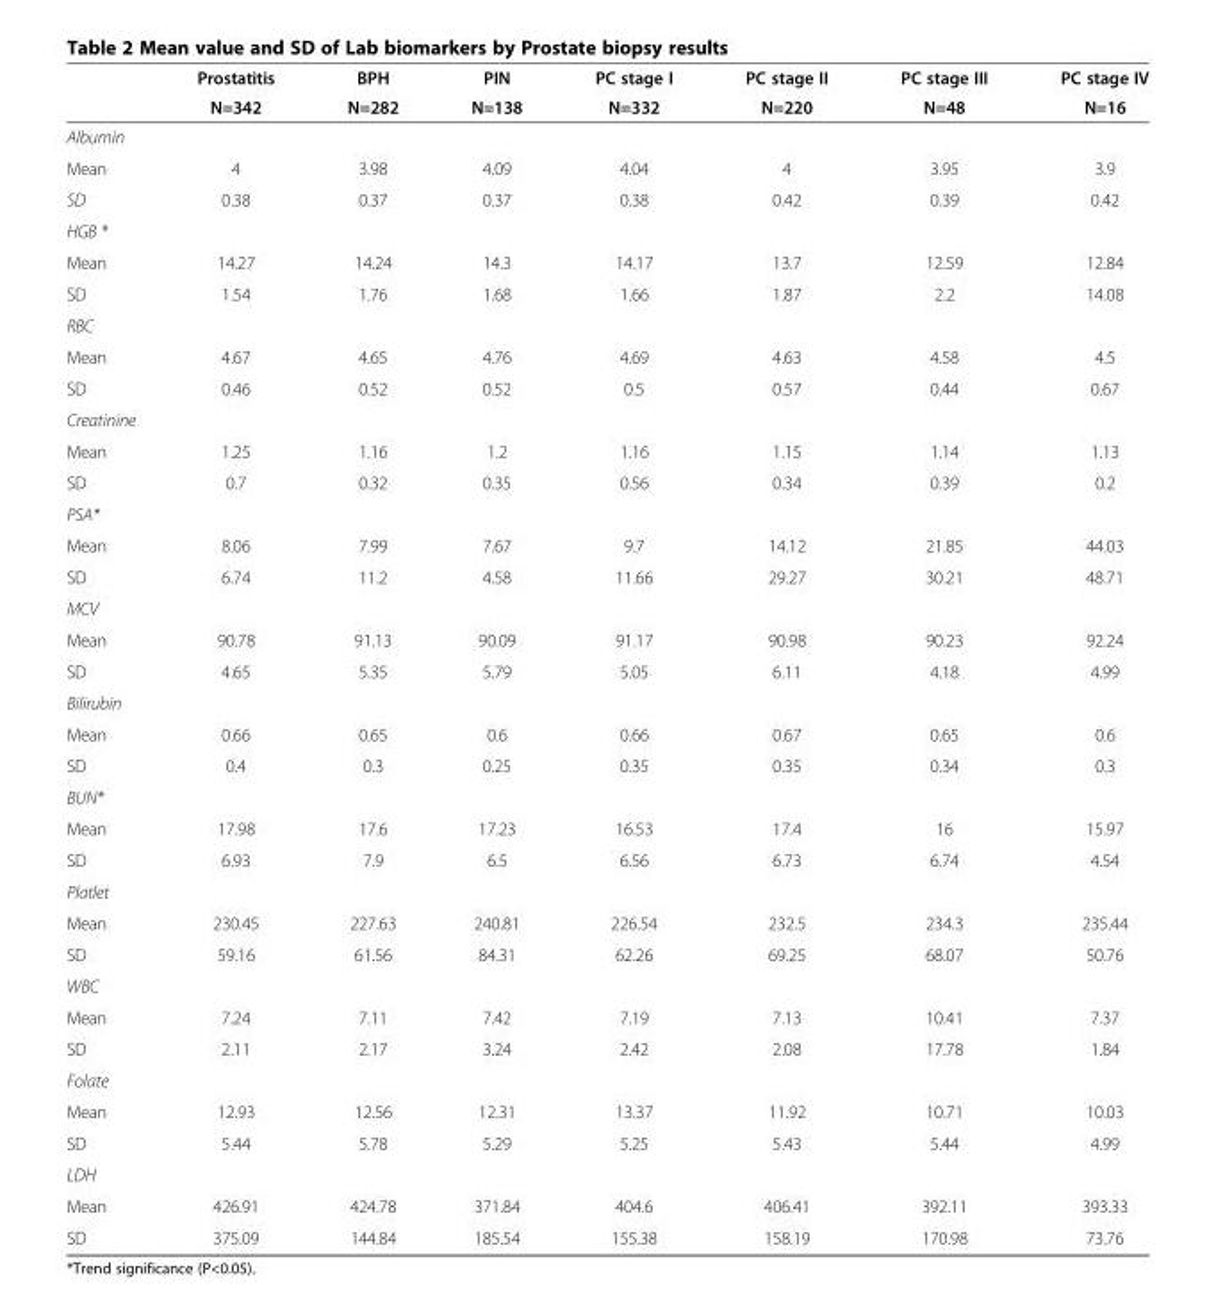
<table><thead><tr><td rowspan="2"></td><td rowspan="2">Prostatitis N=342</td><td rowspan="2">BPH N=282</td><td rowspan="2">PIN N=138</td><td rowspan="2">PC stage I N=332</td><td rowspan="2">PC stage II N=220</td><td rowspan="2">PC stage III N=48</td><td rowspan="2">PC stage IV N=16</td></tr><tr></tr></thead><tbody><tr><td colspan="8">Albumin</td></tr><tr><td>Mean</td><td>4</td><td>3.98</td><td>4.09</td><td>4.04</td><td>4</td><td>3.95</td><td>3.9</td></tr><tr><td>SD</td><td>0.38</td><td>0.37</td><td>0.37</td><td>0.38</td><td>0.42</td><td>0.39</td><td>0.42</td></tr><tr><td colspan="8">HGB *</td></tr><tr><td>Mean</td><td>14.27</td><td>14.24</td><td>14.3</td><td>14.17</td><td>13.7</td><td>12.59</td><td>12.84</td></tr><tr><td>SD</td><td>1.54</td><td>1.76</td><td>1.68</td><td>1.66</td><td>1.87</td><td>2.2</td><td>14.08</td></tr><tr><td colspan="8">RBC</td></tr><tr><td>Mean</td><td>4.67</td><td>4.65</td><td>4.76</td><td>4.69</td><td>4.63</td><td>4.58</td><td>4.5</td></tr><tr><td>SD</td><td>0.46</td><td>0.52</td><td>0.52</td><td>0.5</td><td>0.57</td><td>0.44</td><td>0.67</td></tr><tr><td colspan="8">Creatinine</td></tr><tr><td>Mean</td><td>1.25</td><td>1.16</td><td>1.2</td><td>1.16</td><td>1.15</td><td>1.14</td><td>1.13</td></tr><tr><td>SD</td><td>0.7</td><td>0.32</td><td>0.35</td><td>0.56</td><td>0.34</td><td>0.39</td><td>0.2</td></tr><tr><td colspan="8">PSA*</td></tr><tr><td>Mean</td><td>8.06</td><td>7.99</td><td>7.67</td><td>9.7</td><td>14.12</td><td>21.85</td><td>44.03</td></tr><tr><td>SD</td><td>6.74</td><td>11.2</td><td>4.58</td><td>11.66</td><td>29.27</td><td>30.21</td><td>48.71</td></tr><tr><td colspan="8">MCV</td></tr><tr><td>Mean</td><td>90.78</td><td>91.13</td><td>90.09</td><td>91.17</td><td>90.98</td><td>90.23</td><td>92.24</td></tr><tr><td>SD</td><td>4.65</td><td>5.35</td><td>5.79</td><td>5.05</td><td>6.11</td><td>4.18</td><td>4.99</td></tr><tr><td colspan="8">Bilirubin</td></tr><tr><td>Mean</td><td>0.66</td><td>0.65</td><td>0.6</td><td>0.66</td><td>0.67</td><td>0.65</td><td>0.6</td></tr><tr><td>SD</td><td>0.4</td><td>0.3</td><td>0.25</td><td>0.35</td><td>0.35</td><td>0.34</td><td>0.3</td></tr><tr><td colspan="8">BUN*</td></tr><tr><td>Mean</td><td>17.98</td><td>17.6</td><td>17.23</td><td>16.53</td><td>17.4</td><td>16</td><td>15.97</td></tr><tr><td>SD</td><td>6.93</td><td>7.9</td><td>6.5</td><td>6.56</td><td>6.73</td><td>6.74</td><td>4.54</td></tr><tr><td colspan="8">Platlet</td></tr><tr><td>Mean</td><td>230.45</td><td>227.63</td><td>240.81</td><td>226.54</td><td>232.5</td><td>234.3</td><td>235.44</td></tr><tr><td>SD</td><td>59.16</td><td>61.56</td><td>84.31</td><td>62.26</td><td>69.25</td><td>68.07</td><td>50.76</td></tr><tr><td colspan="8">WBC</td></tr><tr><td>Mean</td><td>7.24</td><td>7.11</td><td>7.42</td><td>7.19</td><td>7.13</td><td>10.41</td><td>7.37</td></tr><tr><td>SD</td><td>2.11</td><td>2.17</td><td>3.24</td><td>2.42</td><td>2.08</td><td>17.78</td><td>1.84</td></tr><tr><td colspan="8">Folate</td></tr><tr><td>Mean</td><td>12.93</td><td>12.56</td><td>12.31</td><td>13.37</td><td>11.92</td><td>10.71</td><td>10.03</td></tr><tr><td>SD</td><td>5.44</td><td>5.78</td><td>5.29</td><td>5.25</td><td>5.43</td><td>5.44</td><td>4.99</td></tr><tr><td colspan="8">LDH</td></tr><tr><td>Mean</td><td>426.91</td><td>424.78</td><td>371.84</td><td>404.6</td><td>406.41</td><td>392.11</td><td>393.33</td></tr><tr><td>SD</td><td>375.09</td><td>144.84</td><td>185.54</td><td>155.38</td><td>158.19</td><td>170.98</td><td>73.76</td></tr></tbody></table>